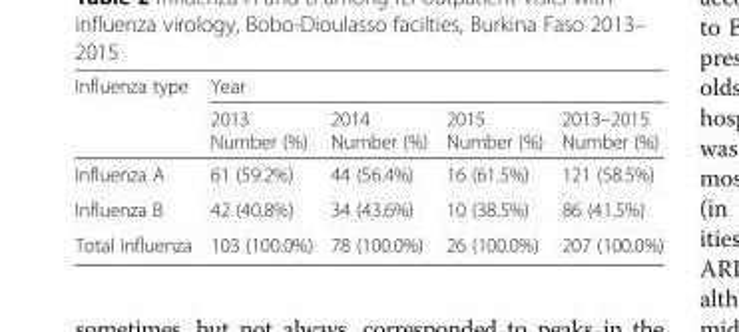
<table><thead><tr><td rowspan="2">Influenza type</td><td colspan="4">Year</td></tr><tr><td>2013 Number (%)</td><td>2014 Number (%)</td><td>2015 Number (%)</td><td>2013–2015 Number (%)</td></tr></thead><tbody><tr><td>Influenza A</td><td>61 (59.2%)</td><td>44 (56.4%)</td><td>16 (61.5%)</td><td>121 (58.5%)</td></tr><tr><td>Influenza B</td><td>42 (40.8%)</td><td>34 (43.6%)</td><td>10 (38.5%)</td><td>86 (41.5%)</td></tr><tr><td>Total influenza</td><td>103 (100.0%)</td><td>78 (100.0%)</td><td>26 (100.0%)</td><td>207 (100.0%)</td></tr></tbody></table>